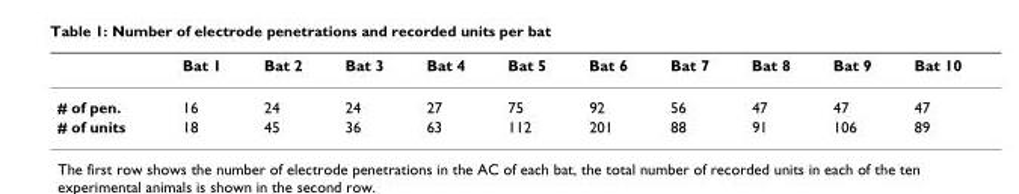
<table><thead><tr><td></td><td>Bat 1</td><td>Bat 2</td><td>Bat 3</td><td>Bat 4</td><td>Bat 5</td><td>Bat 6</td><td>Bat 7</td><td>Bat 8</td><td>Bat 9</td><td>Bat 10</td></tr></thead><tbody><tr><td># of pen.</td><td>16</td><td>24</td><td>24</td><td>27</td><td>75</td><td>92</td><td>56</td><td>47</td><td>47</td><td>47</td></tr><tr><td># of units</td><td>18</td><td>45</td><td>36</td><td>63</td><td>112</td><td>201</td><td>88</td><td>91</td><td>106</td><td>89</td></tr></tbody></table>